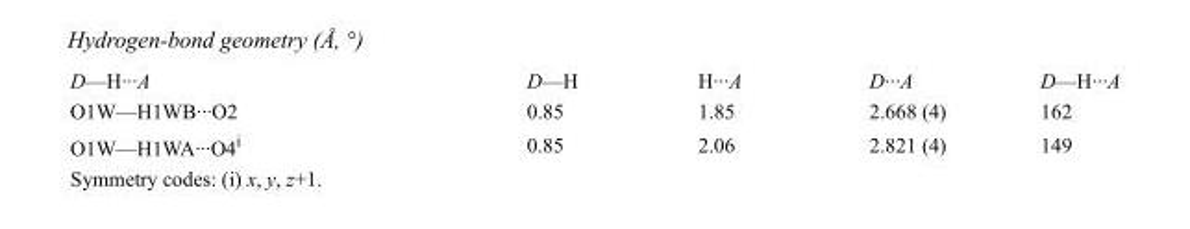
<table><tbody><tr><td>D—H···A</td><td>D—H</td><td>H···A</td><td>D···A</td><td>D—H···A</td></tr><tr><td>O1W—H1WB···O2</td><td>0.85</td><td>1.85</td><td>2.668 (4)</td><td>162</td></tr><tr><td>O1W—H1WA···O4<sup>i</sup></td><td>0.85</td><td>2.06</td><td>2.821 (4)</td><td>149</td></tr></tbody></table>